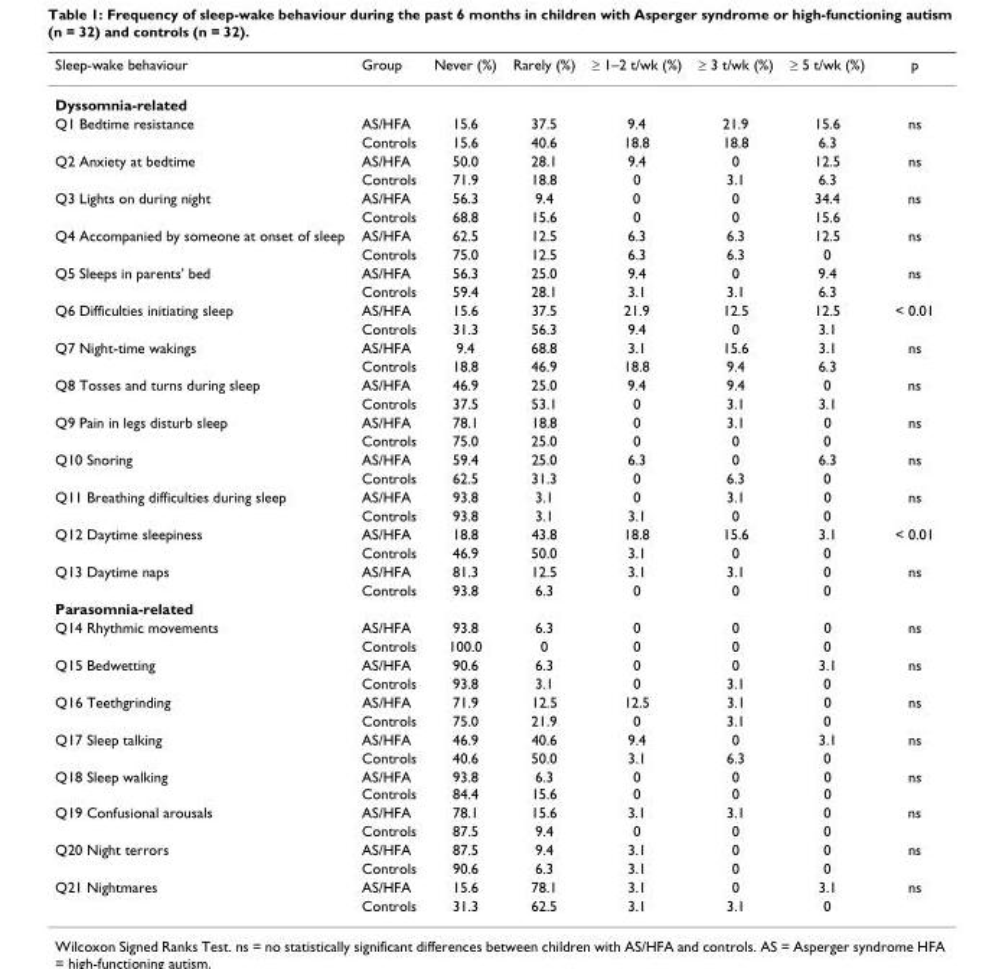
<table><thead><tr><td>Sleep-wake behaviour</td><td>Group</td><td>Never (%)</td><td>Rarely (%)</td><td>≥ 1–2 t/wk (%)</td><td>≥ 3 t/wk (%)</td><td>≥ 5 t/wk (%)</td><td>p</td></tr></thead><tbody><tr><td colspan="8">Dyssomnia-related</td></tr><tr><td rowspan="2">Q1 Bedtime resistance</td><td>AS/HFA</td><td>15.6</td><td>37.5</td><td>9.4</td><td>21.9</td><td>15.6</td><td>ns</td></tr><tr><td>Controls</td><td>15.6</td><td>40.6</td><td>18.8</td><td>18.8</td><td>6.3</td><td></td></tr><tr><td rowspan="2">Q2 Anxiety at bedtime</td><td>AS/HFA</td><td>50.0</td><td>28.1</td><td>9.4</td><td>0</td><td>12.5</td><td>ns</td></tr><tr><td>Controls</td><td>71.9</td><td>18.8</td><td>0</td><td>3.1</td><td>6.3</td><td></td></tr><tr><td rowspan="2">Q3 Lights on during night</td><td>AS/HFA</td><td>56.3</td><td>9.4</td><td>0</td><td>0</td><td>34.4</td><td>ns</td></tr><tr><td>Controls</td><td>68.8</td><td>15.6</td><td>0</td><td>0</td><td>15.6</td><td></td></tr><tr><td rowspan="2">Q4 Accompanied by someone at onset of sleep</td><td>AS/HFA</td><td>62.5</td><td>12.5</td><td>6.3</td><td>6.3</td><td>12.5</td><td>ns</td></tr><tr><td>Controls</td><td>75.0</td><td>12.5</td><td>6.3</td><td>6.3</td><td>0</td><td></td></tr><tr><td rowspan="2">Q5 Sleeps in parents&#x27; bed</td><td>AS/HFA</td><td>56.3</td><td>25.0</td><td>9.4</td><td>0</td><td>9.4</td><td>ns</td></tr><tr><td>Controls</td><td>59.4</td><td>28.1</td><td>3.1</td><td>3.1</td><td>6.3</td><td></td></tr><tr><td rowspan="2">Q6 Difficulties initiating sleep</td><td>AS/HFA</td><td>15.6</td><td>37.5</td><td>21.9</td><td>12.5</td><td>12.5</td><td>&lt; 0.01</td></tr><tr><td>Controls</td><td>31.3</td><td>56.3</td><td>9.4</td><td>0</td><td>3.1</td><td></td></tr><tr><td rowspan="2">Q7 Night-time wakings</td><td>AS/HFA</td><td>9.4</td><td>68.8</td><td>3.1</td><td>15.6</td><td>3.1</td><td>ns</td></tr><tr><td>Controls</td><td>18.8</td><td>46.9</td><td>18.8</td><td>9.4</td><td>6.3</td><td></td></tr><tr><td rowspan="2">Q8 Tosses and turns during sleep</td><td>AS/HFA</td><td>46.9</td><td>25.0</td><td>9.4</td><td>9.4</td><td>0</td><td>ns</td></tr><tr><td>Controls</td><td>37.5</td><td>53.1</td><td>0</td><td>3.1</td><td>3.1</td><td></td></tr><tr><td rowspan="2">Q9 Pain in legs disturb sleep</td><td>AS/HFA</td><td>78.1</td><td>18.8</td><td>0</td><td>3.1</td><td>0</td><td>ns</td></tr><tr><td>Controls</td><td>75.0</td><td>25.0</td><td>0</td><td>0</td><td>0</td><td></td></tr><tr><td rowspan="2">Q10 Snoring</td><td>AS/HFA</td><td>59.4</td><td>25.0</td><td>6.3</td><td>0</td><td>6.3</td><td>ns</td></tr><tr><td>Controls</td><td>62.5</td><td>31.3</td><td>0</td><td>6.3</td><td>0</td><td></td></tr><tr><td rowspan="2">Q11 Breathing difficulties during sleep</td><td>AS/HFA</td><td>93.8</td><td>3.1</td><td>0</td><td>3.1</td><td>0</td><td>ns</td></tr><tr><td>Controls</td><td>93.8</td><td>3.1</td><td>3.1</td><td>0</td><td>0</td><td></td></tr><tr><td rowspan="2">Q12 Daytime sleepiness</td><td>AS/HFA</td><td>18.8</td><td>43.8</td><td>18.8</td><td>15.6</td><td>3.1</td><td>&lt; 0.01</td></tr><tr><td>Controls</td><td>46.9</td><td>50.0</td><td>3.1</td><td>0</td><td>0</td><td></td></tr><tr><td rowspan="2">Q13 Daytime naps</td><td>AS/HFA</td><td>81.3</td><td>12.5</td><td>3.1</td><td>3.1</td><td>0</td><td>ns</td></tr><tr><td>Controls</td><td>93.8</td><td>6.3</td><td>0</td><td>0</td><td>0</td><td></td></tr><tr><td colspan="8">Parasomnia-related</td></tr><tr><td rowspan="2">Q14 Rhythmic movements</td><td>AS/HFA</td><td>93.8</td><td>6.3</td><td>0</td><td>0</td><td>0</td><td>ns</td></tr><tr><td>Controls</td><td>100.0</td><td>0</td><td>0</td><td>0</td><td>0</td><td></td></tr><tr><td rowspan="2">Q15 Bedwetting</td><td>AS/HFA</td><td>90.6</td><td>6.3</td><td>0</td><td>0</td><td>3.1</td><td>ns</td></tr><tr><td>Controls</td><td>93.8</td><td>3.1</td><td>0</td><td>3.1</td><td>0</td><td></td></tr><tr><td rowspan="2">Q16 Teethgrinding</td><td>AS/HFA</td><td>71.9</td><td>12.5</td><td>12.5</td><td>3.1</td><td>0</td><td>ns</td></tr><tr><td>Controls</td><td>75.0</td><td>21.9</td><td>0</td><td>3.1</td><td>0</td><td></td></tr><tr><td rowspan="2">Q17 Sleep talking</td><td>AS/HFA</td><td>46.9</td><td>40.6</td><td>9.4</td><td>0</td><td>3.1</td><td>ns</td></tr><tr><td>Controls</td><td>40.6</td><td>50.0</td><td>3.1</td><td>6.3</td><td>0</td><td></td></tr><tr><td>Q18 Sleep walking</td><td>AS/HFA Controls</td><td>93.8 84.4</td><td>6.3 15.6</td><td>0 0</td><td>0 0</td><td>0 0</td><td>ns</td></tr><tr><td rowspan="2">Q19 Confusional arousals</td><td>AS/HFA</td><td>78.1</td><td>15.6</td><td>3.1</td><td>3.1</td><td>0</td><td>ns</td></tr><tr><td>Controls</td><td>87.5</td><td>9.4</td><td>0</td><td>0</td><td>0</td><td></td></tr><tr><td rowspan="2">Q20 Night terrors</td><td>AS/HFA</td><td>87.5</td><td>9.4</td><td>3.1</td><td>0</td><td>0</td><td>ns</td></tr><tr><td>Controls</td><td>90.6</td><td>6.3</td><td>3.1</td><td>0</td><td>0</td><td></td></tr><tr><td rowspan="2">Q21 Nightmares</td><td>AS/HFA</td><td>15.6</td><td>78.1</td><td>3.1</td><td>0</td><td>3.1</td><td>ns</td></tr><tr><td>Controls</td><td>31.3</td><td>62.5</td><td>3.1</td><td>3.1</td><td>0</td><td></td></tr></tbody></table>